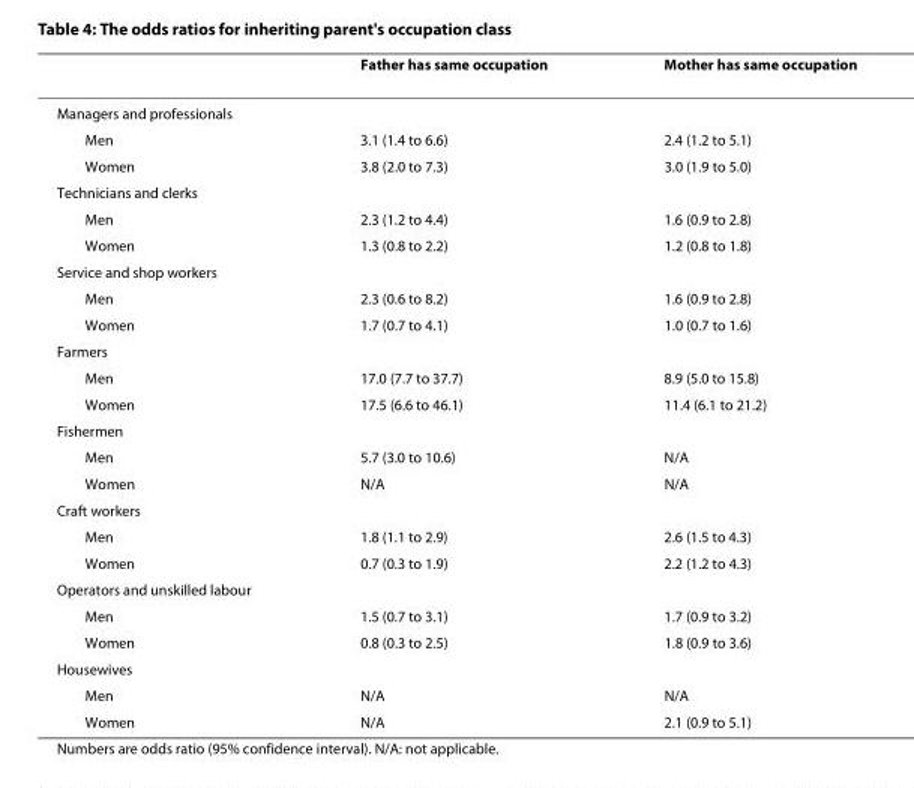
<table><thead><tr><td></td><td>Father has same occupation</td><td>Mother has same occupation</td></tr></thead><tbody><tr><td colspan="3">Managers and professionals</td></tr><tr><td>Men</td><td>3.1 (1.4 to 6.6)</td><td>2.4 (1.2 to 5.1)</td></tr><tr><td>Women</td><td>3.8 (2.0 to 7.3)</td><td>3.0 (1.9 to 5.0)</td></tr><tr><td colspan="3">Technicians and clerks</td></tr><tr><td>Men</td><td>2.3 (1.2 to 4.4)</td><td>1.6 (0.9 to 2.8)</td></tr><tr><td>Women</td><td>1.3 (0.8 to 2.2)</td><td>1.2 (0.8 to 1.8)</td></tr><tr><td colspan="3">Service and shop workers</td></tr><tr><td>Men</td><td>2.3 (0.6 to 8.2)</td><td>1.6 (0.9 to 2.8)</td></tr><tr><td>Women</td><td>1.7 (0.7 to 4.1)</td><td>1.0 (0.7 to 1.6)</td></tr><tr><td colspan="3">Farmers</td></tr><tr><td>Men</td><td>17.0 (7.7 to 37.7)</td><td>8.9 (5.0 to 15.8)</td></tr><tr><td>Women</td><td>17.5 (6.6 to 46.1)</td><td>11.4 (6.1 to 21.2)</td></tr><tr><td colspan="3">Fishermen</td></tr><tr><td>Men</td><td>5.7 (3.0 to 10.6)</td><td>N/A</td></tr><tr><td>Women</td><td>N/A</td><td>N/A</td></tr><tr><td colspan="3">Craft workers</td></tr><tr><td>Men</td><td>1.8 (1.1 to 2.9)</td><td>2.6 (1.5 to 4.3)</td></tr><tr><td>Women</td><td>0.7 (0.3 to 1.9)</td><td>2.2 (1.2 to 4.3)</td></tr><tr><td colspan="3">Operators and unskilled labour</td></tr><tr><td>Men</td><td>1.5 (0.7 to 3.1)</td><td>1.7 (0.9 to 3.2)</td></tr><tr><td>Women</td><td>0.8 (0.3 to 2.5)</td><td>1.8 (0.9 to 3.6)</td></tr><tr><td colspan="3">Housewives</td></tr><tr><td>Men</td><td>N/A</td><td>N/A</td></tr><tr><td>Women</td><td>N/A</td><td>2.1 (0.9 to 5.1)</td></tr></tbody></table>